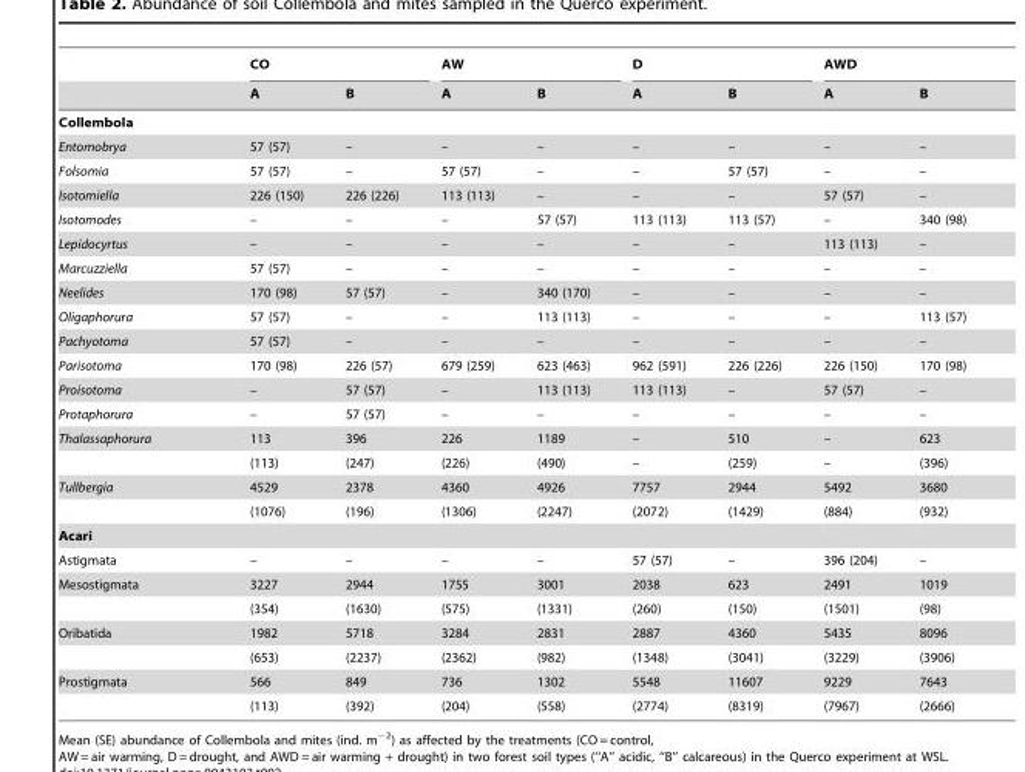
<table><thead><tr><td rowspan="2"></td><td colspan="2">CO</td><td colspan="2">AW</td><td colspan="2">D</td><td colspan="2">AWD</td></tr><tr><td>A</td><td>B</td><td>A</td><td>B</td><td>A</td><td>B</td><td>A</td><td>B</td></tr></thead><tbody><tr><td colspan="9">Collembola</td></tr><tr><td>Entomobrya</td><td>57 (57)</td><td>–</td><td>–</td><td>–</td><td>–</td><td>–</td><td>–</td><td>–</td></tr><tr><td>Folsomia</td><td>57 (57)</td><td>–</td><td>57 (57)</td><td>–</td><td>–</td><td>57 (57)</td><td>–</td><td>–</td></tr><tr><td>Isotomiella</td><td>226 (150)</td><td>226 (226)</td><td>113 (113)</td><td>–</td><td>–</td><td>–</td><td>57 (57)</td><td>–</td></tr><tr><td>Isotomodes</td><td>–</td><td>–</td><td>–</td><td>57 (57)</td><td>113 (113)</td><td>113 (57)</td><td>–</td><td>340 (98)</td></tr><tr><td>Lepidocyrtus</td><td>–</td><td>–</td><td>–</td><td>–</td><td>–</td><td>–</td><td>113 (113)</td><td>–</td></tr><tr><td>Marcuzziella</td><td>57 (57)</td><td>–</td><td>–</td><td>–</td><td>–</td><td>–</td><td>–</td><td>–</td></tr><tr><td>Neelides</td><td>170 (98)</td><td>57 (57)</td><td>–</td><td>340 (170)</td><td>–</td><td>–</td><td>–</td><td>–</td></tr><tr><td>Oligaphorura</td><td>57 (57)</td><td>–</td><td>–</td><td>113 (113)</td><td>–</td><td>–</td><td>–</td><td>113 (57)</td></tr><tr><td>Pachyotoma</td><td>57 (57)</td><td>–</td><td>–</td><td>–</td><td>–</td><td>–</td><td>–</td><td>–</td></tr><tr><td>Parisotoma</td><td>170 (98)</td><td>226 (57)</td><td>679 (259)</td><td>623 (463)</td><td>962 (591)</td><td>226 (226)</td><td>226 (150)</td><td>170 (98)</td></tr><tr><td>Proisotoma</td><td>–</td><td>57 (57)</td><td>–</td><td>113 (113)</td><td>113 (113)</td><td>–</td><td>57 (57)</td><td>–</td></tr><tr><td>Protaphorura</td><td>–</td><td>57 (57)</td><td>–</td><td>–</td><td>–</td><td>–</td><td>–</td><td>–</td></tr><tr><td rowspan="2">Thalassaphorura</td><td>113</td><td>396</td><td>226</td><td>1189</td><td>–</td><td>510</td><td>–</td><td>623</td></tr><tr><td>(113)</td><td>(247)</td><td>(226)</td><td>(490)</td><td>–</td><td>(259)</td><td>–</td><td>(396)</td></tr><tr><td rowspan="2">Tullbergia</td><td>4529</td><td>2378</td><td>4360</td><td>4926</td><td>7757</td><td>2944</td><td>5492</td><td>3680</td></tr><tr><td>(1076)</td><td>(196)</td><td>(1306)</td><td>(2247)</td><td>(2072)</td><td>(1429)</td><td>(884)</td><td>(932)</td></tr><tr><td colspan="9">Acari</td></tr><tr><td>Astigmata</td><td>–</td><td>–</td><td>–</td><td>–</td><td>57 (57)</td><td>–</td><td>396 (204)</td><td>–</td></tr><tr><td rowspan="2">Mesostigmata</td><td>3227</td><td>2944</td><td>1755</td><td>3001</td><td>2038</td><td>623</td><td>2491</td><td>1019</td></tr><tr><td>(354)</td><td>(1630)</td><td>(575)</td><td>(1331)</td><td>(260)</td><td>(150)</td><td>(1501)</td><td>(98)</td></tr><tr><td rowspan="2">Oribatida</td><td>1982</td><td>5718</td><td>3284</td><td>2831</td><td>2887</td><td>4360</td><td>5435</td><td>8096</td></tr><tr><td>(653)</td><td>(2237)</td><td>(2362)</td><td>(982)</td><td>(1348)</td><td>(3041)</td><td>(3229)</td><td>(3906)</td></tr><tr><td rowspan="2">Prostigmata</td><td>566</td><td>849</td><td>736</td><td>1302</td><td>5548</td><td>11607</td><td>9229</td><td>7643</td></tr><tr><td>(113)</td><td>(392)</td><td>(204)</td><td>(558)</td><td>(2774)</td><td>(8319)</td><td>(7967)</td><td>(2666)</td></tr></tbody></table>